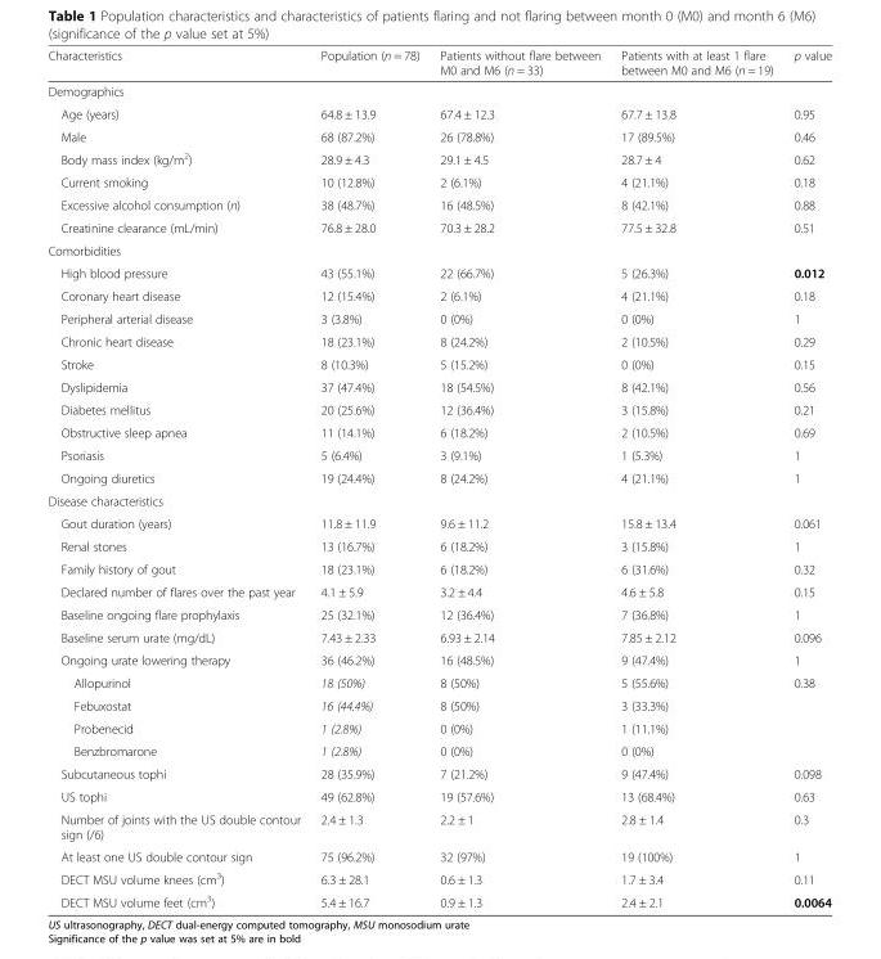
<table><thead><tr><td>Characteristics</td><td>Population (n = 78)</td><td>Patients without flare between M0 and M6 (n = 33)</td><td>Patients with at least 1 flare between M0 and M6 (n = 19)</td><td>p value</td></tr></thead><tbody><tr><td colspan="5">Demographics</td></tr><tr><td>Age (years)</td><td>64.8 ± 13.9</td><td>67.4 ± 12.3</td><td>67.7 ± 13.8</td><td>0.95</td></tr><tr><td>Male</td><td>68 (87.2%)</td><td>26 (78.8%)</td><td>17 (89.5%)</td><td>0.46</td></tr><tr><td>Body mass index (kg/m<sup>2</sup>)</td><td>28.9 ± 4.3</td><td>29.1 ± 4.5</td><td>28.7 ± 4</td><td>0.62</td></tr><tr><td>Current smoking</td><td>10 (12.8%)</td><td>2 (6.1%)</td><td>4 (21.1%)</td><td>0.18</td></tr><tr><td>Excessive alcohol consumption (n)</td><td>38 (48.7%)</td><td>16 (48.5%)</td><td>8 (42.1%)</td><td>0.88</td></tr><tr><td>Creatinine clearance (mL/min)</td><td>76.8 ± 28.0</td><td>70.3 ± 28.2</td><td>77.5 ± 32.8</td><td>0.51</td></tr><tr><td colspan="5">Comorbidities</td></tr><tr><td>High blood pressure</td><td>43 (55.1%)</td><td>22 (66.7%)</td><td>5 (26.3%)</td><td>0.012</td></tr><tr><td>Coronary heart disease</td><td>12 (15.4%)</td><td>2 (6.1%)</td><td>4 (21.1%)</td><td>0.18</td></tr><tr><td>Peripheral arterial disease</td><td>3 (3.8%)</td><td>0 (0%)</td><td>0 (0%)</td><td>1</td></tr><tr><td>Chronic heart disease</td><td>18 (23.1%)</td><td>8 (24.2%)</td><td>2 (10.5%)</td><td>0.29</td></tr><tr><td>Stroke</td><td>8 (10.3%)</td><td>5 (15.2%)</td><td>0 (0%)</td><td>0.15</td></tr><tr><td>Dyslipidemia</td><td>37 (47.4%)</td><td>18 (54.5%)</td><td>8 (42.1%)</td><td>0.56</td></tr><tr><td>Diabetes mellitus</td><td>20 (25.6%)</td><td>12 (36.4%)</td><td>3 (15.8%)</td><td>0.21</td></tr><tr><td>Obstructive sleep apnea</td><td>11 (14.1%)</td><td>6 (18.2%)</td><td>2 (10.5%)</td><td>0.69</td></tr><tr><td>Psoriasis</td><td>5 (6.4%)</td><td>3 (9.1%)</td><td>1 (5.3%)</td><td>1</td></tr><tr><td>Ongoing diuretics</td><td>19 (24.4%)</td><td>8 (24.2%)</td><td>4 (21.1%)</td><td>1</td></tr><tr><td colspan="5">Disease characteristics</td></tr><tr><td>Gout duration (years)</td><td>11.8 ± 11.9</td><td>9.6 ± 11.2</td><td>15.8 ± 13.4</td><td>0.061</td></tr><tr><td>Renal stones</td><td>13 (16.7%)</td><td>6 (18.2%)</td><td>3 (15.8%)</td><td>1</td></tr><tr><td>Family history of gout</td><td>18 (23.1%)</td><td>6 (18.2%)</td><td>6 (31.6%)</td><td>0.32</td></tr><tr><td>Declared number of flares over the past year</td><td>4.1 ± 5.9</td><td>3.2 ± 4.4</td><td>4.6 ± 5.8</td><td>0.15</td></tr><tr><td>Baseline ongoing flare prophylaxis</td><td>25 (32.1%)</td><td>12 (36.4%)</td><td>7 (36.8%)</td><td>1</td></tr><tr><td>Baseline serum urate (mg/dL)</td><td>7.43 ± 2.33</td><td>6.93 ± 2.14</td><td>7.85 ± 2.12</td><td>0.096</td></tr><tr><td>Ongoing urate lowering therapy</td><td>36 (46.2%)</td><td>16 (48.5%)</td><td>9 (47.4%)</td><td>1</td></tr><tr><td>Allopurinol</td><td>18 (50%)</td><td>8 (50%)</td><td>5 (55.6%)</td><td rowspan="4">0.38</td></tr><tr><td>Febuxostat</td><td>16 (44.4%)</td><td>8 (50%)</td><td>3 (33.3%)</td></tr><tr><td>Probenecid</td><td>1 (2.8%)</td><td>0 (0%)</td><td>1 (11.1%)</td></tr><tr><td>Benzbromarone</td><td>1 (2.8%)</td><td>0 (0%)</td><td>0 (0%)</td></tr><tr><td>Subcutaneous tophi</td><td>28 (35.9%)</td><td>7 (21.2%)</td><td>9 (47.4%)</td><td>0.098</td></tr><tr><td>US tophi</td><td>49 (62.8%)</td><td>19 (57.6%)</td><td>13 (68.4%)</td><td>0.63</td></tr><tr><td>Number of joints with the US double contour sign (/6)</td><td>2.4 ± 1.3</td><td>2.2 ± 1</td><td>2.8 ± 1.4</td><td>0.3</td></tr><tr><td>At least one US double contour sign</td><td>75 (96.2%)</td><td>32 (97%)</td><td>19 (100%)</td><td>1</td></tr><tr><td>DECT MSU volume knees (cm<sup>3</sup>)</td><td>6.3 ± 28.1</td><td>0.6 ± 1.3</td><td>1.7 ± 3.4</td><td>0.11</td></tr><tr><td>DECT MSU volume feet (cm<sup>3</sup>)</td><td>5.4 ± 16.7</td><td>0.9 ± 1.3</td><td>2.4 ± 2.1</td><td>0.0064</td></tr></tbody></table>